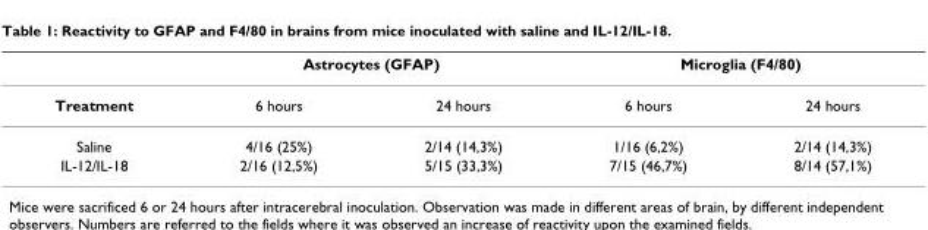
<table><thead><tr><td rowspan="2">Treatment</td><td colspan="2">Astrocytes (GFAP)</td><td colspan="2">Microglia (F4/80)</td></tr><tr><td>6 hours</td><td>24 hours</td><td>6 hours</td><td>24 hours</td></tr></thead><tbody><tr><td>Saline</td><td>4/16 (25%)</td><td>2/14 (14,3%)</td><td>1/16 (6,2%)</td><td>2/14 (14,3%)</td></tr><tr><td>IL-12/IL-18</td><td>2/16 (12,5%)</td><td>5/15 (33,3%)</td><td>7/15 (46,7%)</td><td>8/14 (57,1%)</td></tr></tbody></table>